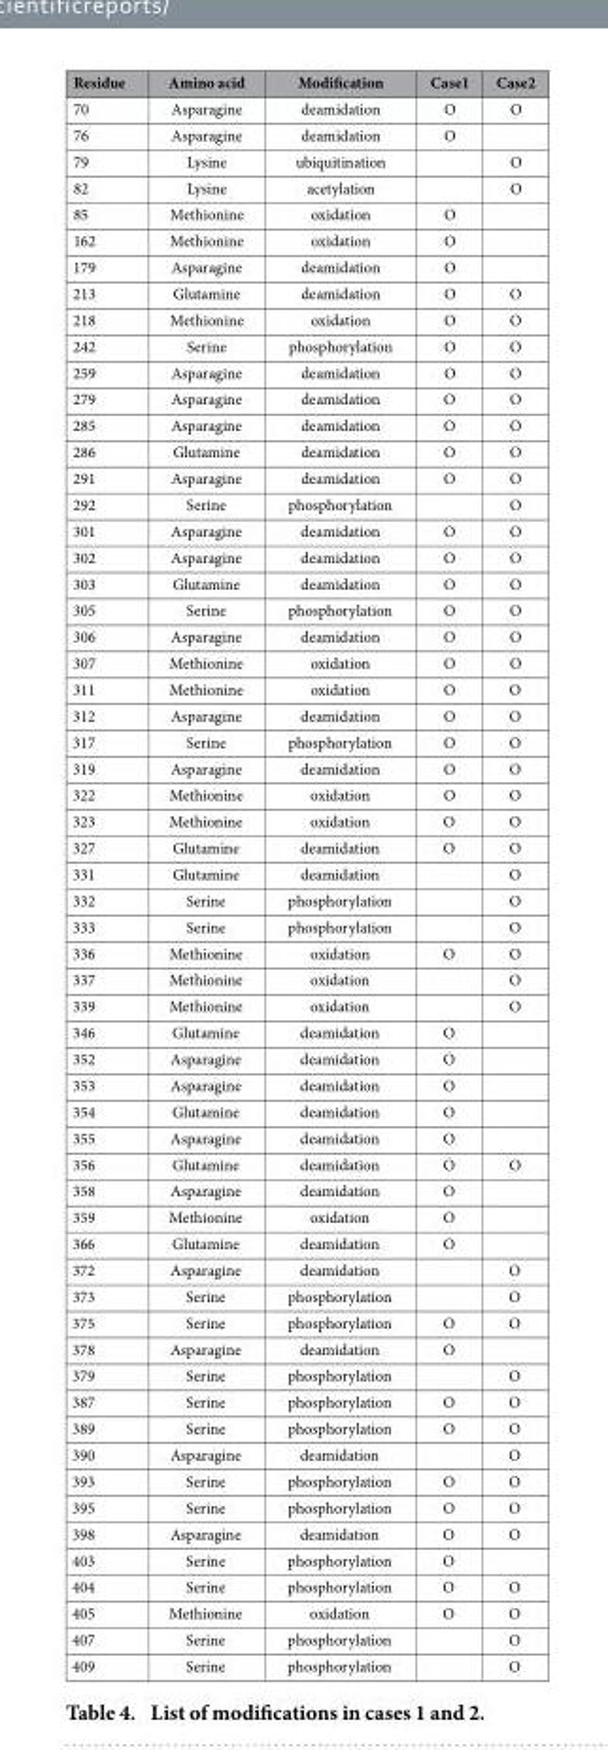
<table><thead><tr><td>Residue</td><td>Amino acid</td><td>Modification</td><td>Case1</td><td>Case2</td></tr></thead><tbody><tr><td>70</td><td>Asparagine</td><td>deamidation</td><td>O</td><td>O</td></tr><tr><td>76</td><td>Asparagine</td><td>deamidation</td><td>O</td><td></td></tr><tr><td>79</td><td>Lysine</td><td>ubiquitination</td><td></td><td>O</td></tr><tr><td>82</td><td>Lysine</td><td>acetylation</td><td></td><td>O</td></tr><tr><td>85</td><td>Methionine</td><td>oxidation</td><td>O</td><td></td></tr><tr><td>162</td><td>Methionine</td><td>oxidation</td><td>O</td><td></td></tr><tr><td>179</td><td>Asparagine</td><td>deamidation</td><td>O</td><td></td></tr><tr><td>213</td><td>Glutamine</td><td>deamidation</td><td>O</td><td>O</td></tr><tr><td>218</td><td>Methionine</td><td>oxidation</td><td>O</td><td>O</td></tr><tr><td>242</td><td>Serine</td><td>phosphorylation</td><td>O</td><td>O</td></tr><tr><td>259</td><td>Asparagine</td><td>deamidation</td><td>O</td><td>O</td></tr><tr><td>279</td><td>Asparagine</td><td>deamidation</td><td>O</td><td>O</td></tr><tr><td>285</td><td>Asparagine</td><td>deamidation</td><td>O</td><td>O</td></tr><tr><td>286</td><td>Glutamine</td><td>deamidation</td><td>O</td><td>O</td></tr><tr><td>291</td><td>Asparagine</td><td>deamidation</td><td>O</td><td>O</td></tr><tr><td>292</td><td>Serine</td><td>phosphorylation</td><td></td><td>O</td></tr><tr><td>301</td><td>Asparagine</td><td>deamidation</td><td>O</td><td>O</td></tr><tr><td>302</td><td>Asparagine</td><td>deamidation</td><td>O</td><td>O</td></tr><tr><td>303</td><td>Glutamine</td><td>deamidation</td><td>O</td><td>O</td></tr><tr><td>305</td><td>Serine</td><td>phosphorylation</td><td>O</td><td>O</td></tr><tr><td>306</td><td>Asparagine</td><td>deamidation</td><td>O</td><td>O</td></tr><tr><td>307</td><td>Methionine</td><td>oxidation</td><td>O</td><td>O</td></tr><tr><td>311</td><td>Methionine</td><td>oxidation</td><td>O</td><td>O</td></tr><tr><td>312</td><td>Asparagine</td><td>deamidation</td><td>O</td><td>O</td></tr><tr><td>317</td><td>Serine</td><td>phosphorylation</td><td>O</td><td>O</td></tr><tr><td>319</td><td>Asparagine</td><td>deamidation</td><td>O</td><td>O</td></tr><tr><td>322</td><td>Methionine</td><td>oxidation</td><td>O</td><td>O</td></tr><tr><td>323</td><td>Methionine</td><td>oxidation</td><td>O</td><td>O</td></tr><tr><td>327</td><td>Glutamine</td><td>deamidation</td><td>O</td><td>O</td></tr><tr><td>331</td><td>Glutamine</td><td>deamidation</td><td></td><td>O</td></tr><tr><td>332</td><td>Serine</td><td>phosphorylation</td><td></td><td>O</td></tr><tr><td>333</td><td>Serine</td><td>phosphorylation</td><td></td><td>O</td></tr><tr><td>336</td><td>Methionine</td><td>oxidation</td><td>O</td><td>O</td></tr><tr><td>337</td><td>Methionine</td><td>oxidation</td><td></td><td>O</td></tr><tr><td>339</td><td>Methionine</td><td>oxidation</td><td></td><td>O</td></tr><tr><td>346</td><td>Glutamine</td><td>deamidation</td><td>O</td><td></td></tr><tr><td>352</td><td>Asparagine</td><td>deamidation</td><td>O</td><td></td></tr><tr><td>353</td><td>Asparagine</td><td>deamidation</td><td>O</td><td></td></tr><tr><td>354</td><td>Glutamine</td><td>deamidation</td><td>O</td><td></td></tr><tr><td>355</td><td>Asparagine</td><td>deamidation</td><td>O</td><td></td></tr><tr><td>356</td><td>Glutamine</td><td>deamidation</td><td>O</td><td>O</td></tr><tr><td>358</td><td>Asparagine</td><td>deamidation</td><td>O</td><td></td></tr><tr><td>359</td><td>Methionine</td><td>oxidation</td><td>O</td><td></td></tr><tr><td>366</td><td>Glutamine</td><td>deamidation</td><td>O</td><td></td></tr><tr><td>372</td><td>Asparagine</td><td>deamidation</td><td></td><td>O</td></tr><tr><td>373</td><td>Serine</td><td>phosphorylation</td><td></td><td>O</td></tr><tr><td>375</td><td>Serine</td><td>phosphorylation</td><td>O</td><td>O</td></tr><tr><td>378</td><td>Asparagine</td><td>deamidation</td><td>O</td><td></td></tr><tr><td>379</td><td>Serine</td><td>phosphorylation</td><td></td><td>O</td></tr><tr><td>387</td><td>Serine</td><td>phosphorylation</td><td>O</td><td>O</td></tr><tr><td>389</td><td>Serine</td><td>phosphorylation</td><td>O</td><td>O</td></tr><tr><td>390</td><td>Asparagine</td><td>deamidation</td><td></td><td>O</td></tr><tr><td>393</td><td>Serine</td><td>phosphorylation</td><td>O</td><td>O</td></tr><tr><td>395</td><td>Serine</td><td>phosphorylation</td><td>O</td><td>O</td></tr><tr><td>398</td><td>Asparagine</td><td>deamidation</td><td>O</td><td>O</td></tr><tr><td>403</td><td>Serine</td><td>phosphorylation</td><td>O</td><td></td></tr><tr><td>404</td><td>Serine</td><td>phosphorylation</td><td>O</td><td>O</td></tr><tr><td>405</td><td>Methionine</td><td>oxidation</td><td>O</td><td>O</td></tr><tr><td>407</td><td>Serine</td><td>phosphorylation</td><td></td><td>O</td></tr><tr><td>409</td><td>Serine</td><td>phosphorylation</td><td></td><td>O</td></tr></tbody></table>